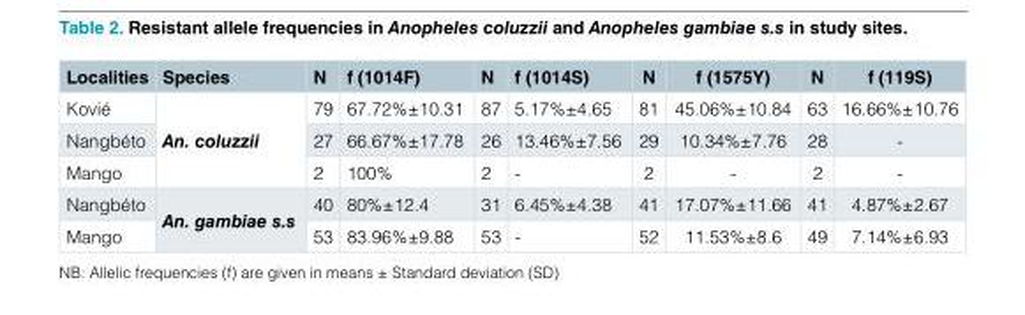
<table><thead><tr><td>Localities</td><td>Species</td><td>N</td><td>f (1014F)</td><td>N</td><td>f (1014S)</td><td>N</td><td>f (1575Y)</td><td>N</td><td>f (119S)</td></tr></thead><tbody><tr><td>Kovié</td><td rowspan="3">An. coluzzii</td><td>79</td><td>67.72%±10.31</td><td>87</td><td>5.17%±4.65</td><td>81</td><td>45.06%±10.84</td><td>63</td><td>16.66%±10.76</td></tr><tr><td>Nangbéto</td><td>27</td><td>66.67%±17.78</td><td>26</td><td>13.46%±7.56</td><td>29</td><td>10.34%±7.76</td><td>28</td><td>-</td></tr><tr><td>Mango</td><td>2</td><td>100%</td><td>2</td><td>-</td><td>2</td><td>-</td><td>2</td><td>-</td></tr><tr><td>Nangbéto</td><td rowspan="2">An. gambiae s.s</td><td>40</td><td>80%±12.4</td><td>31</td><td>6.45%±4.38</td><td>41</td><td>17.07%±11.66</td><td>41</td><td>4.87%±2.67</td></tr><tr><td>Mango</td><td>53</td><td>83.96%±9.88</td><td>53</td><td>-</td><td>52</td><td>11.53%±8.6</td><td>49</td><td>7.14%±6.93</td></tr></tbody></table>